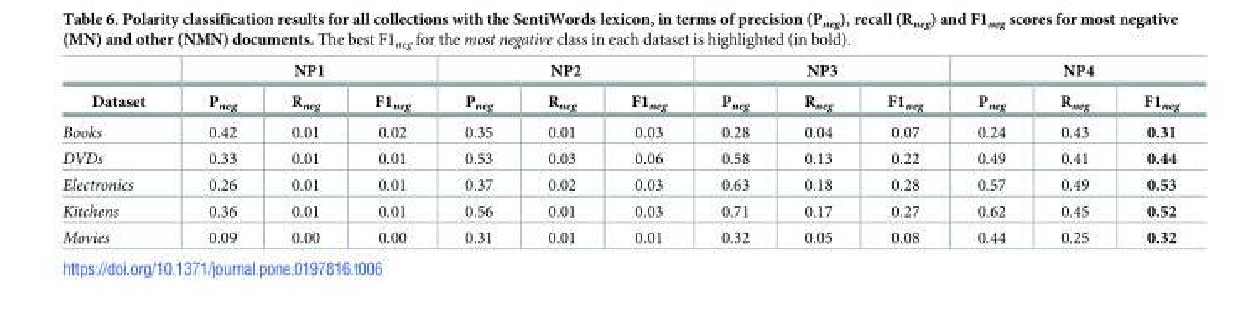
<table><thead><tr><td rowspan="2">Dataset</td><td colspan="3">NP1</td><td colspan="3">NP2</td><td colspan="3">NP3</td><td colspan="3">NP4</td></tr><tr><td>P<sub>neg</sub></td><td>R<sub>neg</sub></td><td>F1<sub>neg</sub></td><td>P<sub>neg</sub></td><td>R<sub>neg</sub></td><td>F1<sub>neg</sub></td><td>P<sub>neg</sub></td><td>R<sub>neg</sub></td><td>F1<sub>neg</sub></td><td>P<sub>neg</sub></td><td>R<sub>neg</sub></td><td>F1<sub>neg</sub></td></tr></thead><tbody><tr><td>Books</td><td>0.42</td><td>0.01</td><td>0.02</td><td>0.35</td><td>0.01</td><td>0.03</td><td>0.28</td><td>0.04</td><td>0.07</td><td>0.24</td><td>0.43</td><td>0.31</td></tr><tr><td>DVDs</td><td>0.33</td><td>0.01</td><td>0.01</td><td>0.53</td><td>0.03</td><td>0.06</td><td>0.58</td><td>0.13</td><td>0.22</td><td>0.49</td><td>0.41</td><td>0.44</td></tr><tr><td>Electronics</td><td>0.26</td><td>0.01</td><td>0.01</td><td>0.37</td><td>0.02</td><td>0.03</td><td>0.63</td><td>0.18</td><td>0.28</td><td>0.57</td><td>0.49</td><td>0.53</td></tr><tr><td>Kitchens</td><td>0.36</td><td>0.01</td><td>0.01</td><td>0.56</td><td>0.01</td><td>0.03</td><td>0.71</td><td>0.17</td><td>0.27</td><td>0.62</td><td>0.45</td><td>0.52</td></tr><tr><td>Movies</td><td>0.09</td><td>0.00</td><td>0.00</td><td>0.31</td><td>0.01</td><td>0.01</td><td>0.32</td><td>0.05</td><td>0.08</td><td>0.44</td><td>0.25</td><td>0.32</td></tr></tbody></table>